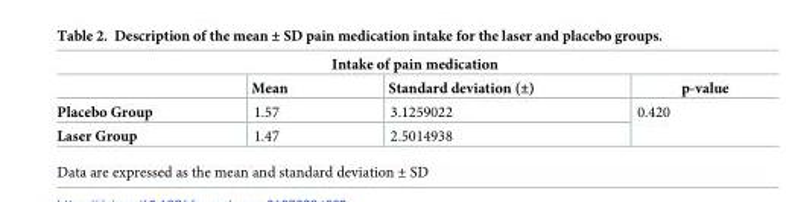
<table><thead><tr><td colspan="4">Intake of pain medication</td></tr><tr><td></td><td>Mean</td><td>Standard deviation (±)</td><td>p-value</td></tr></thead><tbody><tr><td>Placebo Group</td><td>1.57</td><td>3.1259022</td><td rowspan="2">0.420</td></tr><tr><td>Laser Group</td><td>1.47</td><td>2.5014938</td></tr></tbody></table>